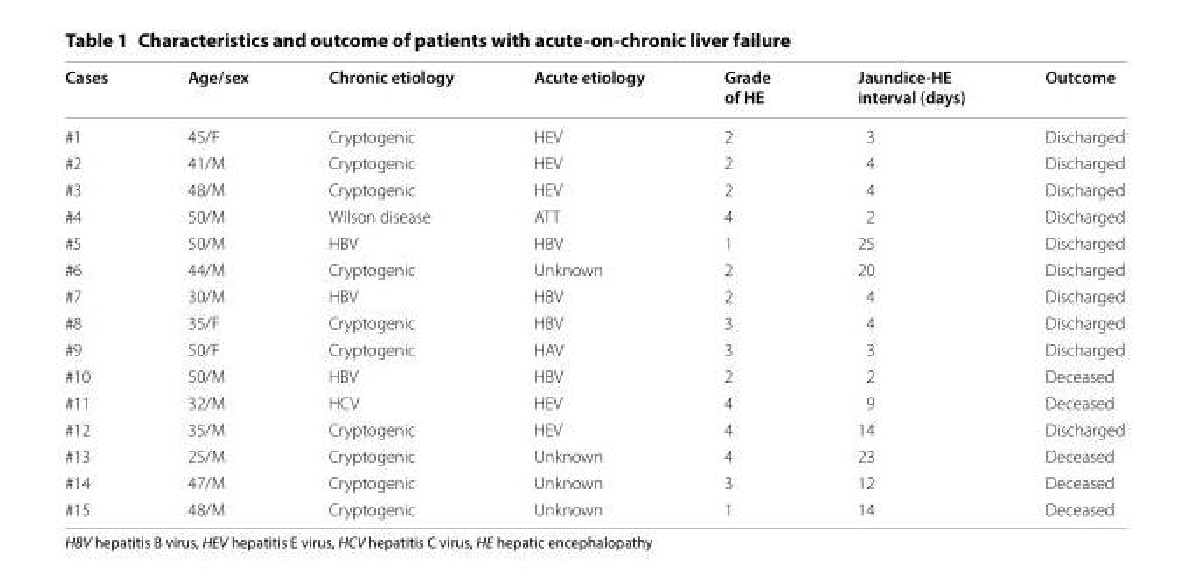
<table><thead><tr><td>Cases</td><td>Age/sex</td><td>Chronic etiology</td><td>Acute etiology</td><td>Grade of HE</td><td>Jaundice-HE interval (days)</td><td>Outcome</td></tr></thead><tbody><tr><td>#1</td><td>45/F</td><td>Cryptogenic</td><td>HEV</td><td>2</td><td>3</td><td>Discharged</td></tr><tr><td>#2</td><td>41/M</td><td>Cryptogenic</td><td>HEV</td><td>2</td><td>4</td><td>Discharged</td></tr><tr><td>#3</td><td>48/M</td><td>Cryptogenic</td><td>HEV</td><td>2</td><td>4</td><td>Discharged</td></tr><tr><td>#4</td><td>50/M</td><td>Wilson disease</td><td>ATT</td><td>4</td><td>2</td><td>Discharged</td></tr><tr><td>#5</td><td>50/M</td><td>HBV</td><td>HBV</td><td>1</td><td>25</td><td>Discharged</td></tr><tr><td>#6</td><td>44/M</td><td>Cryptogenic</td><td>Unknown</td><td>2</td><td>20</td><td>Discharged</td></tr><tr><td>#7</td><td>30/M</td><td>HBV</td><td>HBV</td><td>2</td><td>4</td><td>Discharged</td></tr><tr><td>#8</td><td>35/F</td><td>Cryptogenic</td><td>HBV</td><td>3</td><td>4</td><td>Discharged</td></tr><tr><td>#9</td><td>50/F</td><td>Cryptogenic</td><td>HAV</td><td>3</td><td>3</td><td>Discharged</td></tr><tr><td>#10</td><td>50/M</td><td>HBV</td><td>HBV</td><td>2</td><td>2</td><td>Deceased</td></tr><tr><td>#11</td><td>32/M</td><td>HCV</td><td>HEV</td><td>4</td><td>9</td><td>Deceased</td></tr><tr><td>#12</td><td>35/M</td><td>Cryptogenic</td><td>HEV</td><td>4</td><td>14</td><td>Discharged</td></tr><tr><td>#13</td><td>25/M</td><td>Cryptogenic</td><td>Unknown</td><td>4</td><td>23</td><td>Deceased</td></tr><tr><td>#14</td><td>47/M</td><td>Cryptogenic</td><td>Unknown</td><td>3</td><td>12</td><td>Deceased</td></tr><tr><td>#15</td><td>48/M</td><td>Cryptogenic</td><td>Unknown</td><td>1</td><td>14</td><td>Deceased</td></tr></tbody></table>